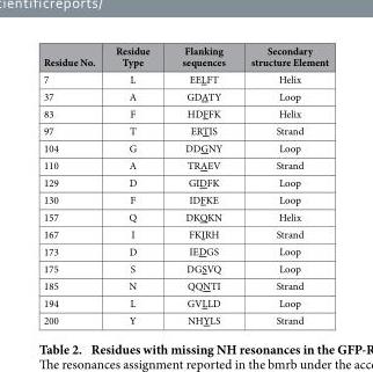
<table><thead><tr><td>Residue No.</td><td>Residue Type</td><td>Flanking sequences</td><td>Secondary structure Element</td></tr></thead><tbody><tr><td>7</td><td>L</td><td>EELFT</td><td>Helix</td></tr><tr><td>37</td><td>A</td><td>GDATY</td><td>Loop</td></tr><tr><td>83</td><td>F</td><td>HDFFK</td><td>Helix</td></tr><tr><td>97</td><td>T</td><td>ERTIS</td><td>Strand</td></tr><tr><td>104</td><td>G</td><td>DDGNY</td><td>Loop</td></tr><tr><td>110</td><td>A</td><td>TRAEV</td><td>Strand</td></tr><tr><td>129</td><td>D</td><td>GIDFK</td><td>Loop</td></tr><tr><td>130</td><td>F</td><td>IDFKE</td><td>Loop</td></tr><tr><td>157</td><td>Q</td><td>DKQKN</td><td>Helix</td></tr><tr><td>167</td><td>I</td><td>FKIRH</td><td>Strand</td></tr><tr><td>173</td><td>D</td><td>IEDGS</td><td>Loop</td></tr><tr><td>175</td><td>S</td><td>DGSVQ</td><td>Loop</td></tr><tr><td>185</td><td>N</td><td>QQNTI</td><td>Strand</td></tr><tr><td>194</td><td>L</td><td>GVLLD</td><td>Loop</td></tr><tr><td>200</td><td>Y</td><td>NHYLS</td><td>Strand</td></tr></tbody></table>